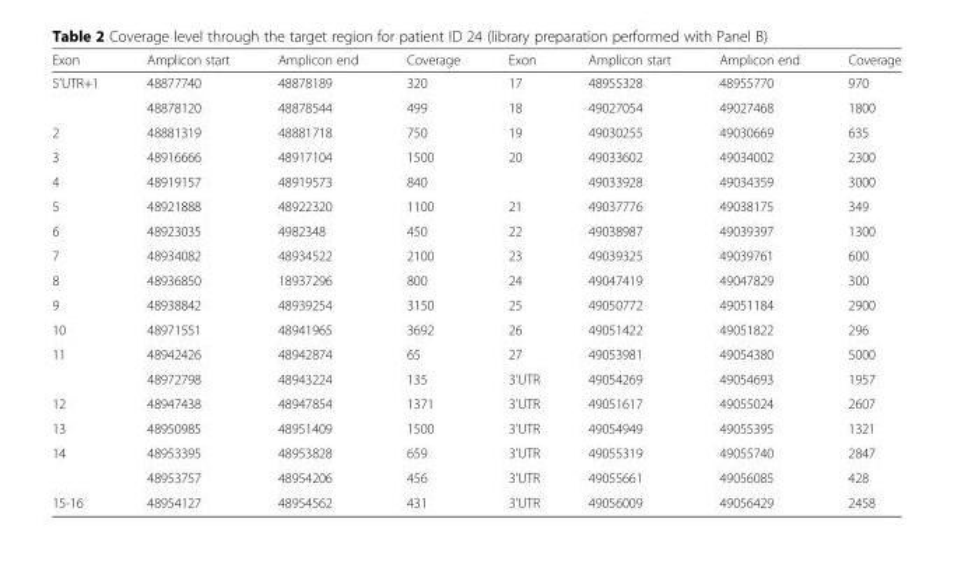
<table><thead><tr><td>Exon</td><td>Amplicon start</td><td>Amplicon end</td><td>Coverage</td><td>Exon</td><td>Amplicon start</td><td>Amplicon end</td><td>Coverage</td></tr></thead><tbody><tr><td rowspan="2">5’UTR+1</td><td>48877740</td><td>48878189</td><td>320</td><td>17</td><td>48955328</td><td>48955770</td><td>970</td></tr><tr><td>48878120</td><td>48878544</td><td>499</td><td>18</td><td>49027054</td><td>49027468</td><td>1800</td></tr><tr><td>2</td><td>48881319</td><td>48881718</td><td>750</td><td>19</td><td>49030255</td><td>49030669</td><td>635</td></tr><tr><td>3</td><td>48916666</td><td>48917104</td><td>1500</td><td>20</td><td>49033602</td><td>49034002</td><td>2300</td></tr><tr><td>4</td><td>48919157</td><td>48919573</td><td>840</td><td></td><td>49033928</td><td>49034359</td><td>3000</td></tr><tr><td>5</td><td>48921888</td><td>48922320</td><td>1100</td><td>21</td><td>49037776</td><td>49038175</td><td>349</td></tr><tr><td>6</td><td>48923035</td><td>4982348</td><td>450</td><td>22</td><td>49038987</td><td>49039397</td><td>1300</td></tr><tr><td>7</td><td>48934082</td><td>48934522</td><td>2100</td><td>23</td><td>49039325</td><td>49039761</td><td>600</td></tr><tr><td>8</td><td>48936850</td><td>18937296</td><td>800</td><td>24</td><td>49047419</td><td>49047829</td><td>300</td></tr><tr><td>9</td><td>48938842</td><td>48939254</td><td>3150</td><td>25</td><td>49050772</td><td>49051184</td><td>2900</td></tr><tr><td>10</td><td>48971551</td><td>48941965</td><td>3692</td><td>26</td><td>49051422</td><td>49051822</td><td>296</td></tr><tr><td rowspan="2">11</td><td>48942426</td><td>48942874</td><td>65</td><td>27</td><td>49053981</td><td>49054380</td><td>5000</td></tr><tr><td>48972798</td><td>48943224</td><td>135</td><td>3’UTR</td><td>49054269</td><td>49054693</td><td>1957</td></tr><tr><td>12</td><td>48947438</td><td>48947854</td><td>1371</td><td>3’UTR</td><td>49051617</td><td>49055024</td><td>2607</td></tr><tr><td>13</td><td>48950985</td><td>48951409</td><td>1500</td><td>3’UTR</td><td>49054949</td><td>49055395</td><td>1321</td></tr><tr><td rowspan="2">14</td><td>48953395</td><td>48953828</td><td>659</td><td>3’UTR</td><td>49055319</td><td>49055740</td><td>2847</td></tr><tr><td>48953757</td><td>48954206</td><td>456</td><td>3’UTR</td><td>49055661</td><td>49056085</td><td>428</td></tr><tr><td>15-16</td><td>48954127</td><td>48954562</td><td>431</td><td>3’UTR</td><td>49056009</td><td>49056429</td><td>2458</td></tr></tbody></table>